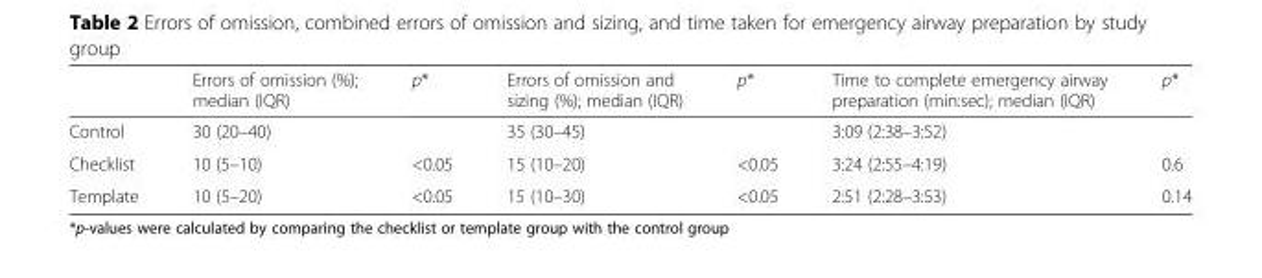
<table><thead><tr><td></td><td>Errors of omission (%); median (IQR)</td><td>p*</td><td>Errors of omission and sizing (%); median (IQR)</td><td>p*</td><td>Time to complete emergency airway preparation (min:sec); median (IQR)</td><td>p*</td></tr></thead><tbody><tr><td>Control</td><td>30 (20–40)</td><td></td><td>35 (30–45)</td><td></td><td>3:09 (2:38–3:52)</td><td></td></tr><tr><td>Checklist</td><td>10 (5–10)</td><td>&lt;0.05</td><td>15 (10–20)</td><td>&lt;0.05</td><td>3:24 (2:55–4:19)</td><td>0.6</td></tr><tr><td>Template</td><td>10 (5–20)</td><td>&lt;0.05</td><td>15 (10–30)</td><td>&lt;0.05</td><td>2:51 (2:28–3:53)</td><td>0.14</td></tr></tbody></table>